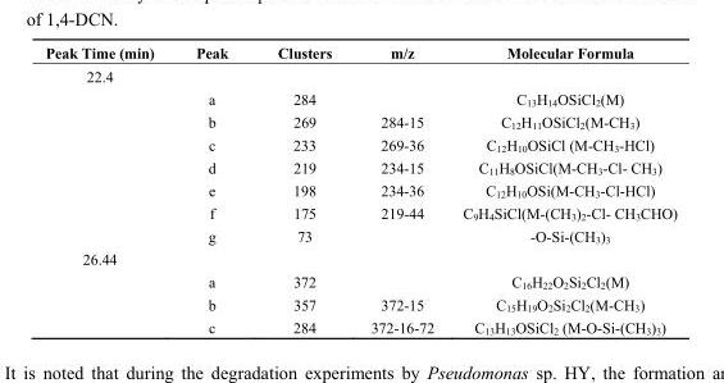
<table><thead><tr><td>Peak Time (min)</td><td>Peak</td><td>Clusters</td><td>m/z</td><td>Molecular Formula</td></tr></thead><tbody><tr><td colspan="5">22.4</td></tr><tr><td></td><td>a</td><td>284</td><td></td><td>C<sub>13</sub>H<sub>14</sub>OSiCl<sub>2</sub>(M)</td></tr><tr><td></td><td>b</td><td>269</td><td>284-15</td><td>C<sub>12</sub>H<sub>11</sub>OSiCl<sub>2</sub>(M-CH<sub>3</sub>)</td></tr><tr><td></td><td>c</td><td>233</td><td>269-36</td><td>C<sub>12</sub>H<sub>10</sub>OSiCl (M-CH<sub>3</sub>-HCl)</td></tr><tr><td></td><td>d</td><td>219</td><td>234-15</td><td>C<sub>11</sub>H<sub>8</sub>OSiCl(M-CH<sub>3</sub>-Cl- CH<sub>3</sub>)</td></tr><tr><td></td><td>e</td><td>198</td><td>234-36</td><td>C<sub>12</sub>H<sub>10</sub>OSi(M-CH<sub>3</sub>-Cl-HCl)</td></tr><tr><td></td><td>f</td><td>175</td><td>219-44</td><td>C<sub>9</sub>H<sub>4</sub>SiCl(M-(CH<sub>3</sub>)<sub>2</sub>-Cl- CH<sub>3</sub>CHO)</td></tr><tr><td></td><td>g</td><td>73</td><td></td><td>-O-Si-(CH<sub>3</sub>)<sub>3</sub></td></tr><tr><td colspan="5">26.44</td></tr><tr><td></td><td>a</td><td>372</td><td></td><td>C<sub>16</sub>H<sub>22</sub>O<sub>2</sub>Si<sub>2</sub>Cl<sub>2</sub>(M)</td></tr><tr><td></td><td>b</td><td>357</td><td>372-15</td><td>C<sub>15</sub>H<sub>19</sub>O<sub>2</sub>Si<sub>2</sub>Cl<sub>2</sub>(M-CH<sub>3</sub>)</td></tr><tr><td></td><td>c</td><td>284</td><td>372-16-72</td><td>C<sub>13</sub>H<sub>13</sub>OSiCl<sub>2</sub> (M-O-Si-(CH<sub>3</sub>)<sub>3</sub>)</td></tr></tbody></table>